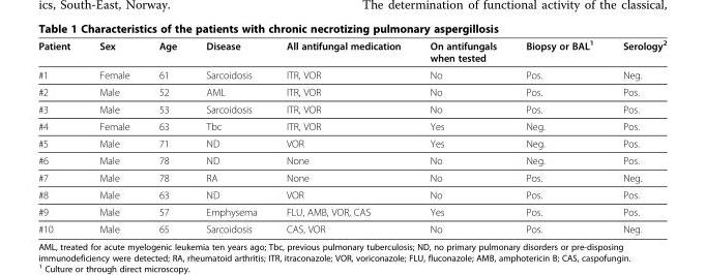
<table><thead><tr><td>Patient</td><td>Sex</td><td>Age</td><td>Disease</td><td>All antifungal medication</td><td>On antifungals when tested</td><td>Biopsy or BAL<sup>1</sup></td><td>Serology<sup>2</sup></td></tr></thead><tbody><tr><td>#1</td><td>Female</td><td>61</td><td>Sarcoidosis</td><td>ITR, VOR</td><td>No</td><td>Pos.</td><td>Neg.</td></tr><tr><td>#2</td><td>Male</td><td>52</td><td>AML</td><td>ITR, VOR</td><td>No</td><td>Pos.</td><td>Pos.</td></tr><tr><td>#3</td><td>Male</td><td>53</td><td>Sarcoidosis</td><td>ITR, VOR</td><td>No</td><td>Pos.</td><td>Pos.</td></tr><tr><td>#4</td><td>Female</td><td>63</td><td>Tbc</td><td>ITR, VOR</td><td>Yes</td><td>Neg.</td><td>Pos.</td></tr><tr><td>#5</td><td>Male</td><td>71</td><td>ND</td><td>VOR</td><td>Yes</td><td>Neg.</td><td>Pos.</td></tr><tr><td>#6</td><td>Male</td><td>78</td><td>ND</td><td>None</td><td>No</td><td>Neg.</td><td>Pos.</td></tr><tr><td>#7</td><td>Male</td><td>78</td><td>RA</td><td>None</td><td>No</td><td>Pos.</td><td>Neg.</td></tr><tr><td>#8</td><td>Male</td><td>63</td><td>ND</td><td>VOR</td><td>No</td><td>Pos.</td><td>Pos.</td></tr><tr><td>#9</td><td>Male</td><td>57</td><td>Emphysema</td><td>FLU, AMB, VOR, CAS</td><td>Yes</td><td>Pos.</td><td>Pos.</td></tr><tr><td>#10</td><td>Male</td><td>65</td><td>Sarcoidosis</td><td>CAS, VOR</td><td>No</td><td>Pos.</td><td>Neg.</td></tr></tbody></table>